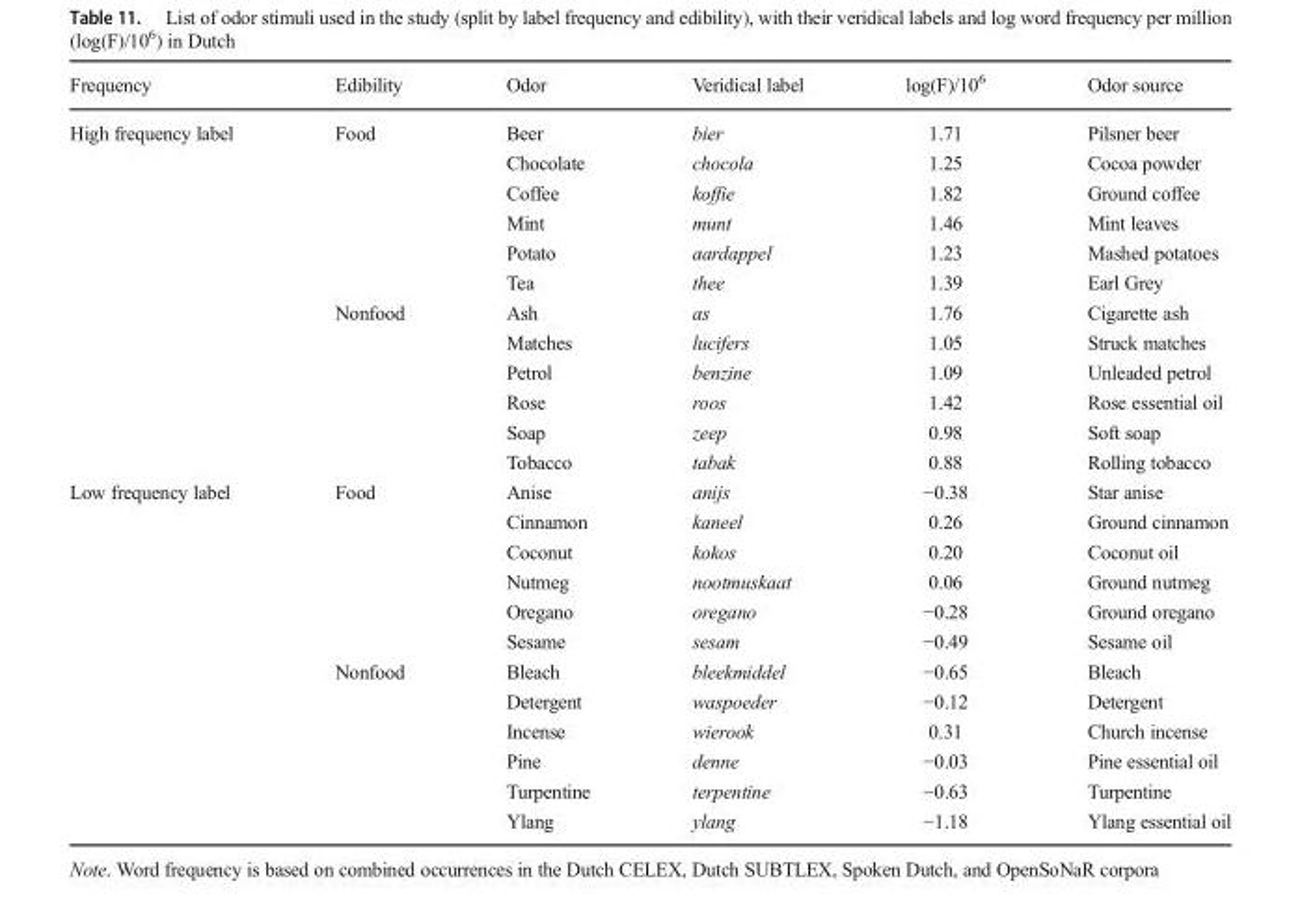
<table><thead><tr><td>Frequency</td><td>Edibility</td><td>Odor</td><td>Veridical label</td><td>log(F)/10<sup>6</sup></td><td>Odor source</td></tr></thead><tbody><tr><td rowspan="12">High frequency label</td><td rowspan="6">Food</td><td>Beer</td><td>bier</td><td>1.71</td><td>Pilsner beer</td></tr><tr><td>Chocolate</td><td>chocola</td><td>1.25</td><td>Cocoa powder</td></tr><tr><td>Coffee</td><td>koffie</td><td>1.82</td><td>Ground coffee</td></tr><tr><td>Mint</td><td>munt</td><td>1.46</td><td>Mint leaves</td></tr><tr><td>Potato</td><td>aardappel</td><td>1.23</td><td>Mashed potatoes</td></tr><tr><td>Tea</td><td>thee</td><td>1.39</td><td>Earl Grey</td></tr><tr><td rowspan="6">Nonfood</td><td>Ash</td><td>as</td><td>1.76</td><td>Cigarette ash</td></tr><tr><td>Matches</td><td>lucifers</td><td>1.05</td><td>Struck matches</td></tr><tr><td>Petrol</td><td>benzine</td><td>1.09</td><td>Unleaded petrol</td></tr><tr><td>Rose</td><td>roos</td><td>1.42</td><td>Rose essential oil</td></tr><tr><td>Soap</td><td>zeep</td><td>0.98</td><td>Soft soap</td></tr><tr><td>Tobacco</td><td>tabak</td><td>0.88</td><td>Rolling tobacco</td></tr><tr><td rowspan="12">Low frequency label</td><td rowspan="6">Food</td><td>Anise</td><td>anijs</td><td>−0.38</td><td>Star anise</td></tr><tr><td>Cinnamon</td><td>kaneel</td><td>0.26</td><td>Ground cinnamon</td></tr><tr><td>Coconut</td><td>kokos</td><td>0.20</td><td>Coconut oil</td></tr><tr><td>Nutmeg</td><td>nootmuskaat</td><td>0.06</td><td>Ground nutmeg</td></tr><tr><td>Oregano</td><td>oregano</td><td>−0.28</td><td>Ground oregano</td></tr><tr><td>Sesame</td><td>sesam</td><td>−0.49</td><td>Sesame oil</td></tr><tr><td rowspan="6">Nonfood</td><td>Bleach</td><td>bleekmiddel</td><td>−0.65</td><td>Bleach</td></tr><tr><td>Detergent</td><td>waspoeder</td><td>−0.12</td><td>Detergent</td></tr><tr><td>Incense</td><td>wierook</td><td>0.31</td><td>Church incense</td></tr><tr><td>Pine</td><td>denne</td><td>−0.03</td><td>Pine essential oil</td></tr><tr><td>Turpentine</td><td>terpentine</td><td>−0.63</td><td>Turpentine</td></tr><tr><td>Ylang</td><td>ylang</td><td>−1.18</td><td>Ylang essential oil</td></tr></tbody></table>